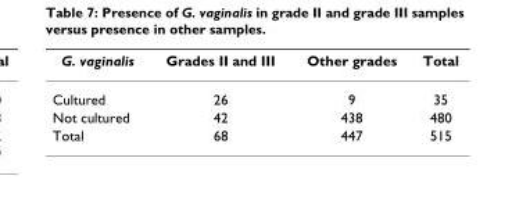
<table><thead><tr><td>G. vaginalis</td><td>Grades II and III</td><td>Other grades</td><td>Total</td></tr></thead><tbody><tr><td>Cultured</td><td>26</td><td>9</td><td>35</td></tr><tr><td>Not cultured</td><td>42</td><td>438</td><td>480</td></tr><tr><td>Total</td><td>68</td><td>447</td><td>515</td></tr></tbody></table>